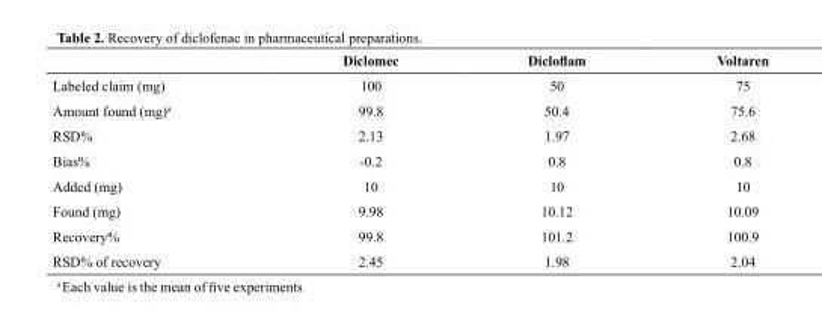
<table><thead><tr><td></td><td>Diclomec</td><td>Dicloflam</td><td>Voltaren</td></tr></thead><tbody><tr><td>Labeled claim (mg)</td><td>100</td><td>50</td><td>75</td></tr><tr><td>Amount found (mg)<sup>a</sup></td><td>99.8</td><td>50.4</td><td>75.6</td></tr><tr><td>RSD%</td><td>2.13</td><td>1.97</td><td>2.68</td></tr><tr><td>Bias%</td><td>-0.2</td><td>0.8</td><td>0.8</td></tr><tr><td>Added (mg)</td><td>10</td><td>10</td><td>10</td></tr><tr><td>Found (mg)</td><td>9.98</td><td>10.12</td><td>10.09</td></tr><tr><td>Recovery%</td><td>99.8</td><td>101.2</td><td>100.9</td></tr><tr><td>RSD% of recovery</td><td>2.45</td><td>1.98</td><td>2.04</td></tr></tbody></table>